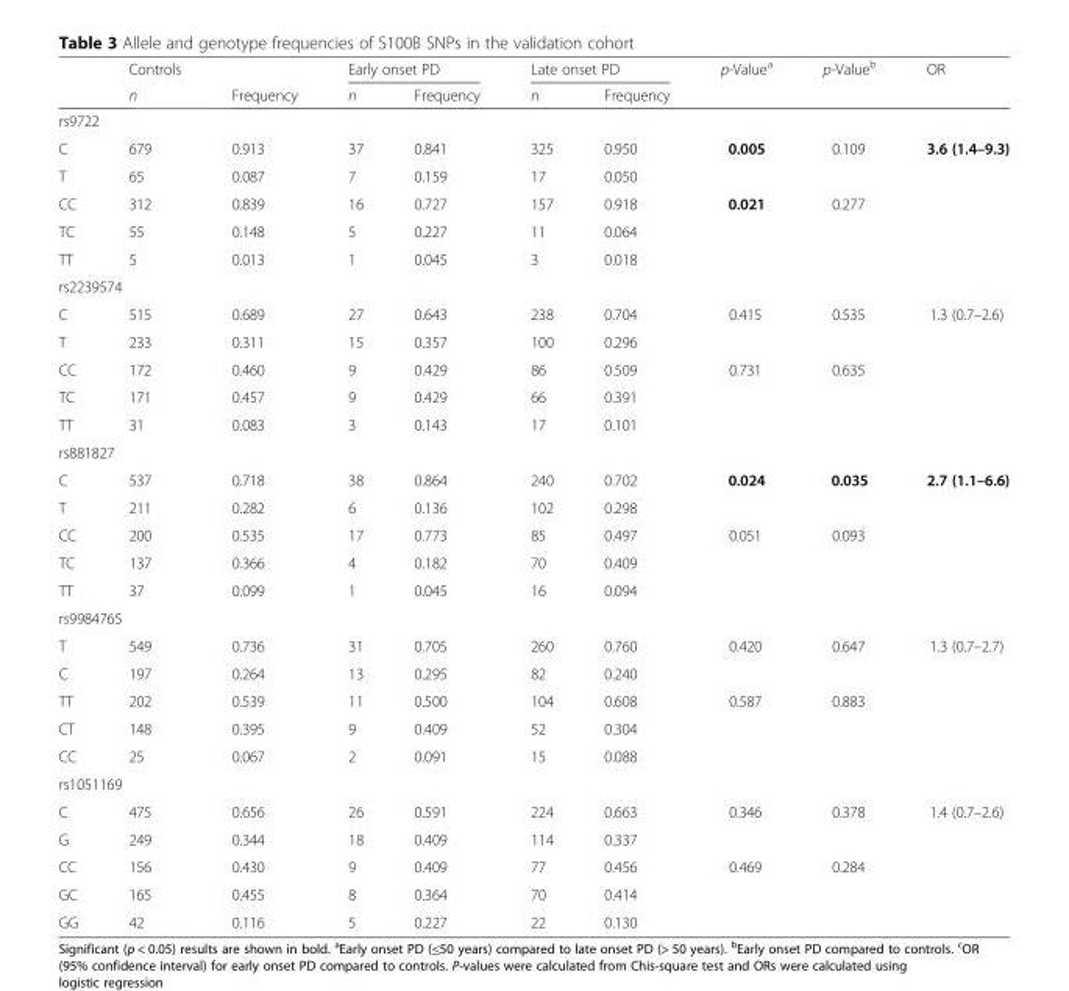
<table><thead><tr><td rowspan="2"></td><td rowspan="2">Controls n</td><td rowspan="2">Frequency</td><td colspan="2">Early onset PD</td><td colspan="2">Late onset PD</td><td rowspan="2">p-Value<sup>a</sup></td><td rowspan="2">p-Value<sup>b</sup></td><td rowspan="2">OR</td></tr><tr><td>n</td><td>Frequency</td><td>n</td><td>Frequency</td></tr></thead><tbody><tr><td colspan="10">rs9722</td></tr><tr><td>C</td><td>679</td><td>0.913</td><td>37</td><td>0.841</td><td>325</td><td>0.950</td><td>0.005</td><td>0.109</td><td>3.6 (1.4–9.3)</td></tr><tr><td>T</td><td>65</td><td>0.087</td><td>7</td><td>0.159</td><td>17</td><td>0.050</td><td></td><td></td><td></td></tr><tr><td>CC</td><td>312</td><td>0.839</td><td>16</td><td>0.727</td><td>157</td><td>0.918</td><td>0.021</td><td>0.277</td><td></td></tr><tr><td>TC</td><td>55</td><td>0.148</td><td>5</td><td>0.227</td><td>11</td><td>0.064</td><td></td><td></td><td></td></tr><tr><td>TT</td><td>5</td><td>0.013</td><td>1</td><td>0.045</td><td>3</td><td>0.018</td><td></td><td></td><td></td></tr><tr><td colspan="10">rs2239574</td></tr><tr><td>C</td><td>515</td><td>0.689</td><td>27</td><td>0.643</td><td>238</td><td>0.704</td><td>0.415</td><td>0.535</td><td>1.3 (0.7–2.6)</td></tr><tr><td>T</td><td>233</td><td>0.311</td><td>15</td><td>0.357</td><td>100</td><td>0.296</td><td></td><td></td><td></td></tr><tr><td>CC</td><td>172</td><td>0.460</td><td>9</td><td>0.429</td><td>86</td><td>0.509</td><td>0.731</td><td>0.635</td><td></td></tr><tr><td>TC</td><td>171</td><td>0.457</td><td>9</td><td>0.429</td><td>66</td><td>0.391</td><td></td><td></td><td></td></tr><tr><td>TT</td><td>31</td><td>0.083</td><td>3</td><td>0.143</td><td>17</td><td>0.101</td><td></td><td></td><td></td></tr><tr><td colspan="10">rs881827</td></tr><tr><td>C</td><td>537</td><td>0.718</td><td>38</td><td>0.864</td><td>240</td><td>0.702</td><td>0.024</td><td>0.035</td><td>2.7 (1.1–6.6)</td></tr><tr><td>T</td><td>211</td><td>0.282</td><td>6</td><td>0.136</td><td>102</td><td>0.298</td><td></td><td></td><td></td></tr><tr><td>CC</td><td>200</td><td>0.535</td><td>17</td><td>0.773</td><td>85</td><td>0.497</td><td>0.051</td><td>0.093</td><td></td></tr><tr><td>TC</td><td>137</td><td>0.366</td><td>4</td><td>0.182</td><td>70</td><td>0.409</td><td></td><td></td><td></td></tr><tr><td>TT</td><td>37</td><td>0.099</td><td>1</td><td>0.045</td><td>16</td><td>0.094</td><td></td><td></td><td></td></tr><tr><td colspan="10">rs9984765</td></tr><tr><td>T</td><td>549</td><td>0.736</td><td>31</td><td>0.705</td><td>260</td><td>0.760</td><td>0.420</td><td>0.647</td><td>1.3 (0.7–2.7)</td></tr><tr><td>C</td><td>197</td><td>0.264</td><td>13</td><td>0.295</td><td>82</td><td>0.240</td><td></td><td></td><td></td></tr><tr><td>TT</td><td>202</td><td>0.539</td><td>11</td><td>0.500</td><td>104</td><td>0.608</td><td>0.587</td><td>0.883</td><td></td></tr><tr><td>CT</td><td>148</td><td>0.395</td><td>9</td><td>0.409</td><td>52</td><td>0.304</td><td></td><td></td><td></td></tr><tr><td>CC</td><td>25</td><td>0.067</td><td>2</td><td>0.091</td><td>15</td><td>0.088</td><td></td><td></td><td></td></tr><tr><td colspan="10">rs1051169</td></tr><tr><td>C</td><td>475</td><td>0.656</td><td>26</td><td>0.591</td><td>224</td><td>0.663</td><td>0.346</td><td>0.378</td><td>1.4 (0.7–2.6)</td></tr><tr><td>G</td><td>249</td><td>0.344</td><td>18</td><td>0.409</td><td>114</td><td>0.337</td><td></td><td></td><td></td></tr><tr><td>CC</td><td>156</td><td>0.430</td><td>9</td><td>0.409</td><td>77</td><td>0.456</td><td>0.469</td><td>0.284</td><td></td></tr><tr><td>GC</td><td>165</td><td>0.455</td><td>8</td><td>0.364</td><td>70</td><td>0.414</td><td></td><td></td><td></td></tr><tr><td>GG</td><td>42</td><td>0.116</td><td>5</td><td>0.227</td><td>22</td><td>0.130</td><td></td><td></td><td></td></tr></tbody></table>